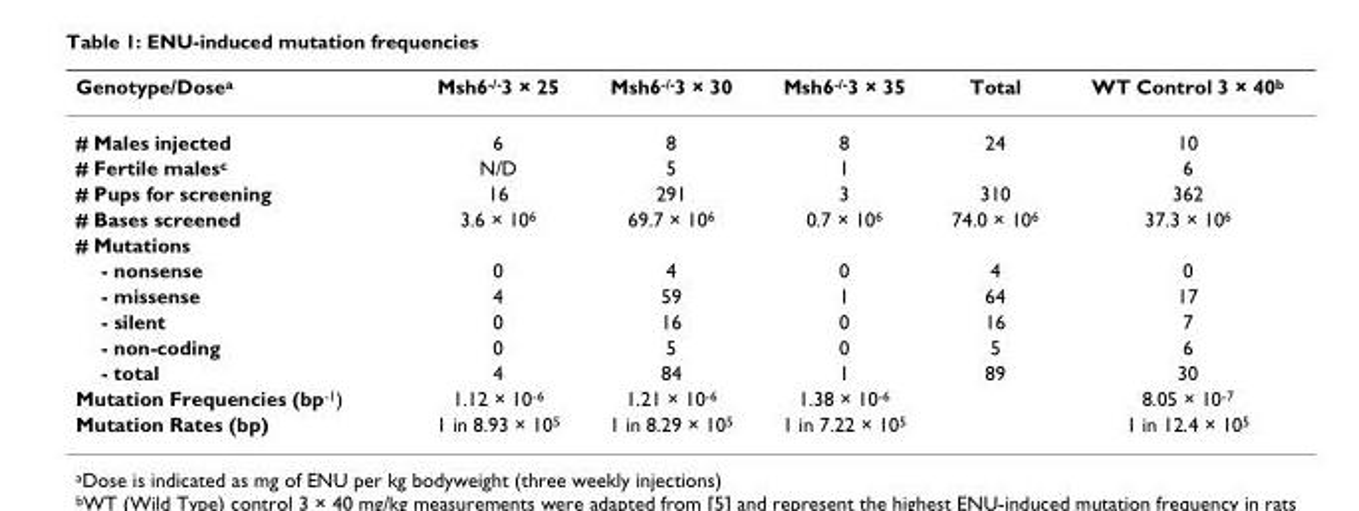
<table><thead><tr><td>Genotype/Dose<sup>a</sup></td><td>Msh6<sup>-/-</sup>3 × 25</td><td>Msh6<sup>-/-</sup>3 × 30</td><td>Msh6<sup>-/-</sup>3 × 35</td><td>Total</td><td>WT Control 3 × 40<sup>b</sup></td></tr></thead><tbody><tr><td># Males injected</td><td>6</td><td>8</td><td>8</td><td>24</td><td>10</td></tr><tr><td># Fertile males<sup>c</sup></td><td>N/D</td><td>5</td><td>1</td><td></td><td>6</td></tr><tr><td># Pups for screening</td><td>16</td><td>291</td><td>3</td><td>310</td><td>362</td></tr><tr><td># Bases screened</td><td>3.6 × 10<sup>6</sup></td><td>69.7 × 10<sup>6</sup></td><td>0.7 × 10<sup>6</sup></td><td>74.0 × 10<sup>6</sup></td><td>37.3 × 10<sup>6</sup></td></tr><tr><td colspan="6"># Mutations</td></tr><tr><td>- nonsense</td><td>0</td><td>4</td><td>0</td><td>4</td><td>0</td></tr><tr><td>- missense</td><td>4</td><td>59</td><td>1</td><td>64</td><td>17</td></tr><tr><td>- silent</td><td>0</td><td>16</td><td>0</td><td>16</td><td>7</td></tr><tr><td>- non-coding</td><td>0</td><td>5</td><td>0</td><td>5</td><td>6</td></tr><tr><td>- total</td><td>4</td><td>84</td><td>1</td><td>89</td><td>30</td></tr><tr><td>Mutation Frequencies (bp<sup>-1</sup>)</td><td>1.12 × 10<sup>-6</sup></td><td>1.21 × 10<sup>-6</sup></td><td>1.38 × 10<sup>-6</sup></td><td></td><td>8.05 × 10<sup>-7</sup></td></tr><tr><td>Mutation Rates (bp)</td><td>1 in 8.93 × 10<sup>5</sup></td><td>1 in 8.29 × 10<sup>5</sup></td><td>1 in 7.22 × 10<sup>5</sup></td><td></td><td>1 in 12.4 × 10<sup>5</sup></td></tr></tbody></table>